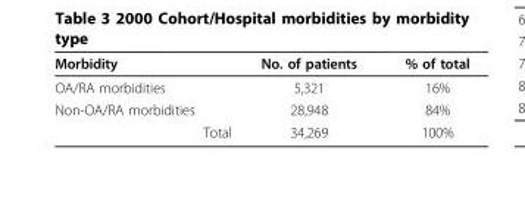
<table><thead><tr><td>Morbidity</td><td>No. of patients</td><td>% of total</td></tr></thead><tbody><tr><td>OA/RA morbidities</td><td>5,321</td><td>16%</td></tr><tr><td>Non-OA/RA morbidities</td><td>28,948</td><td>84%</td></tr><tr><td>Total</td><td>34,269</td><td>100%</td></tr></tbody></table>